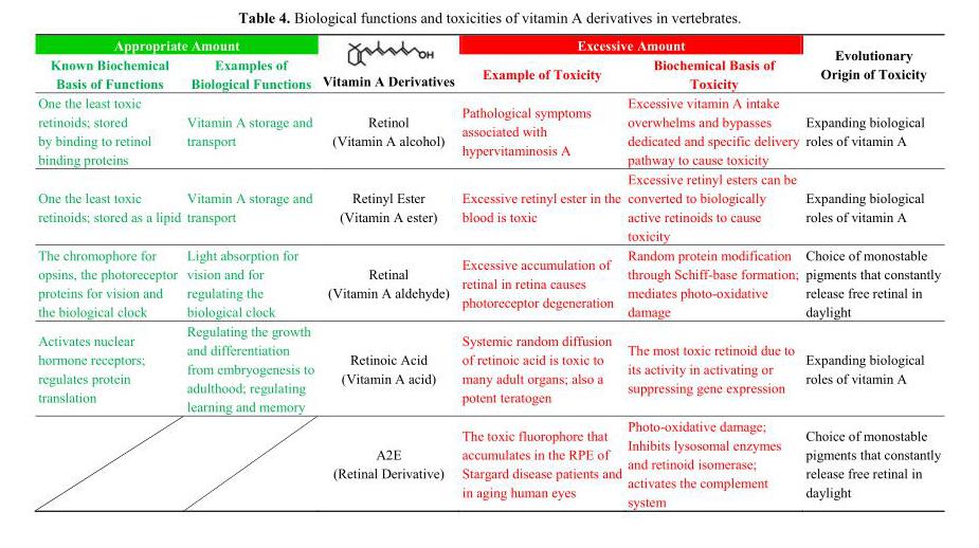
<table><tbody><tr><td colspan="2">Appropriate Amount</td><td rowspan="2">Vitamin A Derivatives</td><td colspan="2">Excessive Amount</td><td rowspan="2">Evolutionary Origin of Toxicity</td></tr><tr><td>Known Biochemical Basis of Functions</td><td>Examples of Biological Functions</td><td>Example of Toxicity</td><td>Biochemical Basis of Toxicity</td></tr><tr><td>One the least toxic retinoids; stored by binding to retinol binding proteins</td><td>Vitamin A storage and transport</td><td>Retinol (Vitamin A alcohol)</td><td>Pathological symptoms associated with hypervitaminosis A</td><td>Excessive vitamin A intake overwhelms and bypasses dedicated and specific delivery pathway to cause toxicity</td><td>Expanding biological roles of vitamin A</td></tr><tr><td>One the least toxic retinoids; stored as a lipid</td><td>Vitamin A storage and transport</td><td>Retinyl Ester (Vitamin A ester)</td><td>Excessive retinyl ester in the blood is toxic</td><td>Excessive retinyl esters can be converted to biologically active retinoids to cause toxicity</td><td>Expanding biological roles of vitamin A</td></tr><tr><td>The chromophore for opsins, the photoreceptor proteins for vision and the biological clock</td><td>Light absorption for vision and for regulating the biological clock</td><td>Retinal (Vitamin A aldehyde)</td><td>Excessive accumulation of retinal in retina causes photoreceptor degeneration</td><td>Random protein modification through Schiff-base formation; mediates photo-oxidative damage</td><td>Choice of monostable pigments that constantly release free retinal in daylight</td></tr><tr><td rowspan="2">Activates nuclear hormone receptors; regulates protein translation</td><td>Regulating the growth and differentiation from embryogenesis to adulthood; regulating learning and memory</td><td>Retinoic Acid (Vitamin A acid)</td><td>Systemic random diffusion of retinoic acid is toxic to many adult organs; also a potent teratogen</td><td>The most toxic retinoid due to its activity in activating or suppressing gene expression</td><td>Expanding biological roles of vitamin A</td></tr><tr><td></td><td>A2E (Retinal Derivative)</td><td>The toxic fluorophore that accumulates in the RPE of Stargard disease patients and in aging human eyes</td><td>Photo-oxidative damage; Inhibits lysosomal enzymes and retinoid isomerase; activates the complement system</td><td>Choice of monostable pigments that constantly release free retinal in daylight</td></tr></tbody></table>